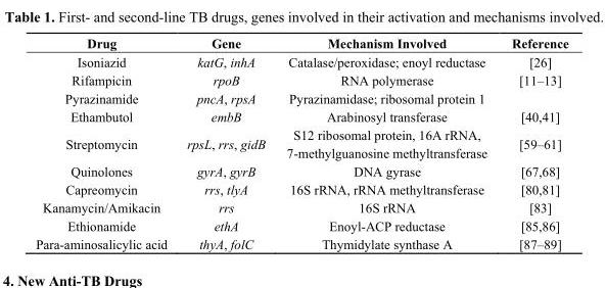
<table><thead><tr><td>Drug</td><td>Gene</td><td>Mechanism Involved</td><td>Reference</td></tr></thead><tbody><tr><td>Isoniazid</td><td>katG, inhA</td><td>Catalase/peroxidase; enoyl reductase</td><td>[26]</td></tr><tr><td>Rifampicin</td><td>rpoB</td><td>RNA polymerase</td><td>[11–13]</td></tr><tr><td>Pyrazinamide</td><td>pncA, rpsA</td><td>Pyrazinamidase; ribosomal protein 1</td><td></td></tr><tr><td>Ethambutol</td><td>embB</td><td>Arabinosyl transferase</td><td>[40,41]</td></tr><tr><td>Streptomycin</td><td>rpsL, rrs, gidB</td><td>S12 ribosomal protein, 16A rRNA, 7-methylguanosine methyltransferase</td><td>[59–61]</td></tr><tr><td>Quinolones</td><td>gyrA, gyrB</td><td>DNA gyrase</td><td>[67,68]</td></tr><tr><td>Capreomycin</td><td>rrs, tlyA</td><td>16S rRNA, rRNA methyltransferase</td><td>[80,81]</td></tr><tr><td>Kanamycin/Amikacin</td><td>rrs</td><td>16S rRNA</td><td>[83]</td></tr><tr><td>Ethionamide</td><td>ethA</td><td>Enoyl-ACP reductase</td><td>[85,86]</td></tr><tr><td>Para-aminosalicylic acid</td><td>thyA, folC</td><td>Thymidylate synthase A</td><td>[87–89]</td></tr></tbody></table>